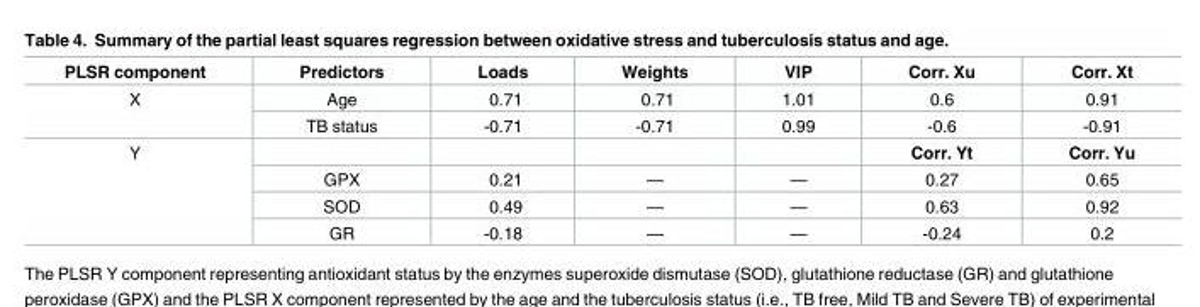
<table><thead><tr><td>PLSR component</td><td>Predictors</td><td>Loads</td><td>Weights</td><td>VIP</td><td>Corr. Xu</td><td>Corr. Xt</td></tr></thead><tbody><tr><td rowspan="2">X</td><td>Age</td><td>0.71</td><td>0.71</td><td>1.01</td><td>0.6</td><td>0.91</td></tr><tr><td>TB status</td><td>-0.71</td><td>-0.71</td><td>0.99</td><td>-0.6</td><td>-0.91</td></tr><tr><td rowspan="4">Y</td><td></td><td></td><td></td><td></td><td>Corr. Yt</td><td>Corr. Yu</td></tr><tr><td>GPX</td><td>0.21</td><td>—</td><td>—</td><td>0.27</td><td>0.65</td></tr><tr><td>SOD</td><td>0.49</td><td>—</td><td>—</td><td>0.63</td><td>0.92</td></tr><tr><td>GR</td><td>-0.18</td><td>—</td><td>—</td><td>-0.24</td><td>0.2</td></tr></tbody></table>